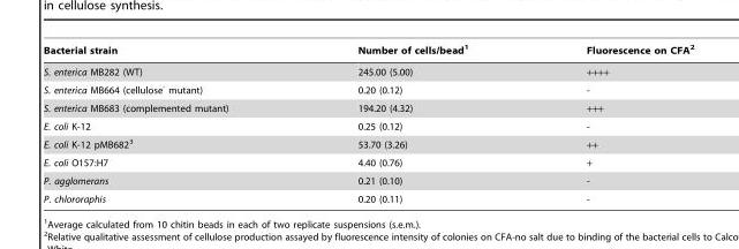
<table><thead><tr><td>Bacterial strain</td><td>Number of cells/bead<sup>1</sup></td><td>Fluorescence on CFA<sup>2</sup></td></tr></thead><tbody><tr><td>S. enterica MB282 (WT)</td><td>245.00 (5.00)</td><td>++++</td></tr><tr><td>S. enterica MB664 (cellulose<sup>-</sup> mutant)</td><td>0.20 (0.12)</td><td>-</td></tr><tr><td>S. enterica MB683 (complemented mutant)</td><td>194.20 (4.32)</td><td>+++</td></tr><tr><td>E. coli K-12</td><td>0.25 (0.12)</td><td>-</td></tr><tr><td>E. coli K-12 pMB682<sup>3</sup></td><td>53.70 (3.26)</td><td>++</td></tr><tr><td>E. coli O157:H7</td><td>4.40 (0.76)</td><td>+</td></tr><tr><td>P. agglomerans</td><td>0.21 (0.10)</td><td>-</td></tr><tr><td>P. chlororaphis</td><td>0.20 (0.11)</td><td>-</td></tr></tbody></table>